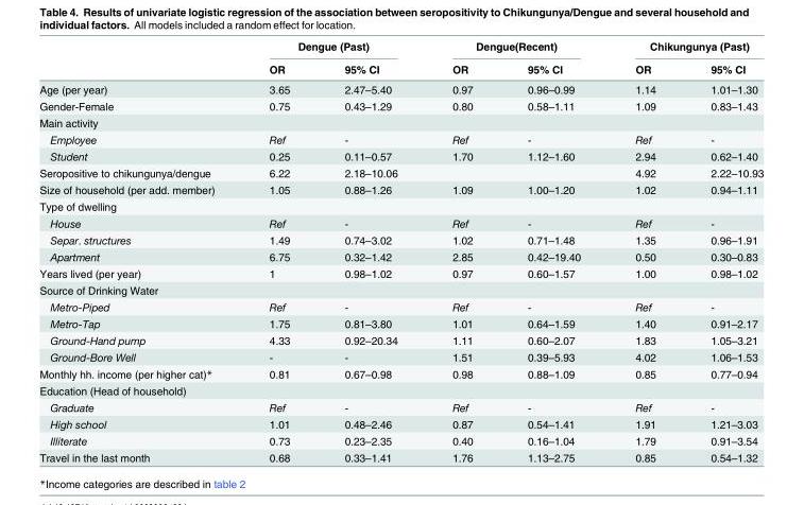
<table><thead><tr><td rowspan="2"></td><td colspan="2">Dengue (Past)</td><td colspan="2">Dengue(Recent)</td><td colspan="2">Chikungunya (Past)</td></tr><tr><td>OR</td><td>95% CI</td><td>OR</td><td>95% CI</td><td>OR</td><td>95% CI</td></tr></thead><tbody><tr><td>Age (per year)</td><td>3.65</td><td>2.47–5.40</td><td>0.97</td><td>0.96–0.99</td><td>1.14</td><td>1.01–1.30</td></tr><tr><td>Gender-Female</td><td>0.75</td><td>0.43–1.29</td><td>0.80</td><td>0.58–1.11</td><td>1.09</td><td>0.83–1.43</td></tr><tr><td colspan="7">Main activity</td></tr><tr><td>Employee</td><td>Ref</td><td>-</td><td>Ref</td><td>-</td><td>Ref</td><td>-</td></tr><tr><td>Student</td><td>0.25</td><td>0.11–0.57</td><td>1.70</td><td>1.12–1.60</td><td>2.94</td><td>0.62–1.40</td></tr><tr><td>Seropositive to chikungunya/dengue</td><td>6.22</td><td>2.18–10.06</td><td></td><td></td><td>4.92</td><td>2.22–10.93</td></tr><tr><td>Size of household (per add. member)</td><td>1.05</td><td>0.88–1.26</td><td>1.09</td><td>1.00–1.20</td><td>1.02</td><td>0.94–1.11</td></tr><tr><td colspan="7">Type of dwelling</td></tr><tr><td>House</td><td>Ref</td><td>-</td><td>Ref</td><td>-</td><td>Ref</td><td>-</td></tr><tr><td>Separ. structures</td><td>1.49</td><td>0.74–3.02</td><td>1.02</td><td>0.71–1.48</td><td>1.35</td><td>0.96–1.91</td></tr><tr><td>Apartment</td><td>6.75</td><td>0.32–1.42</td><td>2.85</td><td>0.42–19.40</td><td>0.50</td><td>0.30–0.83</td></tr><tr><td>Years lived (per year)</td><td>1</td><td>0.98–1.02</td><td>0.97</td><td>0.60–1.57</td><td>1.00</td><td>0.98–1.02</td></tr><tr><td colspan="7">Source of Drinking Water</td></tr><tr><td>Metro-Piped</td><td>Ref</td><td>-</td><td>Ref</td><td>-</td><td>Ref</td><td>-</td></tr><tr><td>Metro-Tap</td><td>1.75</td><td>0.81–3.80</td><td>1.01</td><td>0.64–1.59</td><td>1.40</td><td>0.91–2.17</td></tr><tr><td>Ground-Hand pump</td><td>4.33</td><td>0.92–20.34</td><td>1.11</td><td>0.60–2.07</td><td>1.83</td><td>1.05–3.21</td></tr><tr><td>Ground-Bore Well</td><td>-</td><td>-</td><td>1.51</td><td>0.39–5.93</td><td>4.02</td><td>1.06–1.53</td></tr><tr><td>Monthly hh. income (per higher cat)*</td><td>0.81</td><td>0.67–0.98</td><td>0.98</td><td>0.88–1.09</td><td>0.85</td><td>0.77–0.94</td></tr><tr><td colspan="7">Education (Head of household)</td></tr><tr><td>Graduate</td><td>Ref</td><td>-</td><td>Ref</td><td>-</td><td>Ref</td><td>-</td></tr><tr><td>High school</td><td>1.01</td><td>0.48–2.46</td><td>0.87</td><td>0.54–1.41</td><td>1.91</td><td>1.21–3.03</td></tr><tr><td>Illiterate</td><td>0.73</td><td>0.23–2.35</td><td>0.40</td><td>0.16–1.04</td><td>1.79</td><td>0.91–3.54</td></tr><tr><td>Travel in the last month</td><td>0.68</td><td>0.33–1.41</td><td>1.76</td><td>1.13–2.75</td><td>0.85</td><td>0.54–1.32</td></tr></tbody></table>